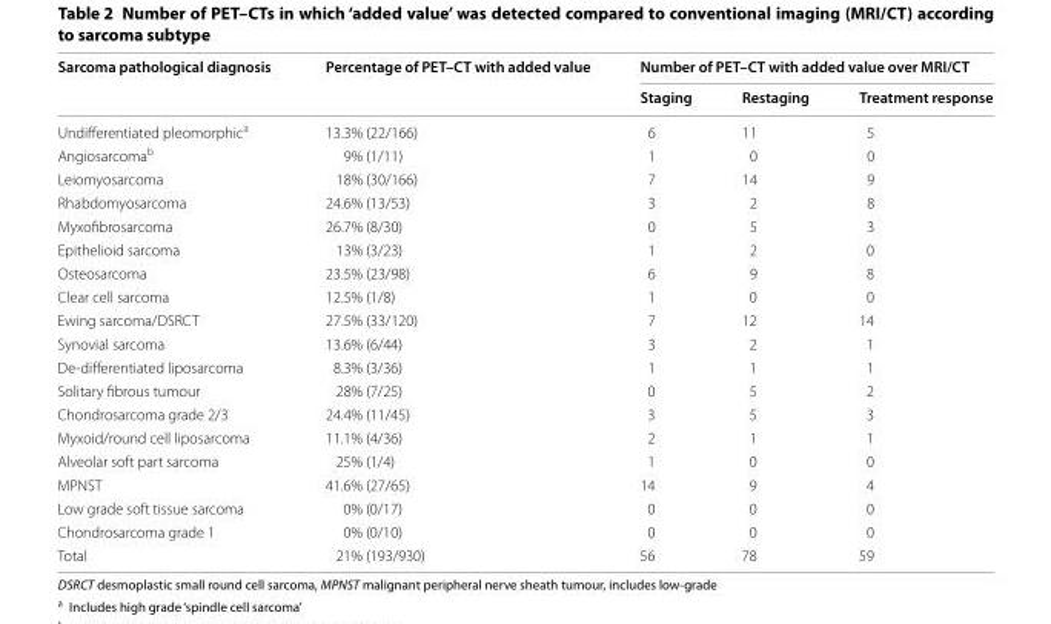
<table><thead><tr><td rowspan="2">Sarcoma pathological diagnosis</td><td rowspan="2">Percentage of PET–CT with added value</td><td colspan="3">Number of PET–CT with added value over MRI/CT</td></tr><tr><td>Staging</td><td>Restaging</td><td>Treatment response</td></tr></thead><tbody><tr><td>Undifferentiated pleomorphic<sup>a</sup></td><td>13.3% (22/166)</td><td>6</td><td>11</td><td>5</td></tr><tr><td>Angiosarcoma<sup>b</sup></td><td>9% (1/11)</td><td>1</td><td>0</td><td>0</td></tr><tr><td>Leiomyosarcoma</td><td>18% (30/166)</td><td>7</td><td>14</td><td>9</td></tr><tr><td>Rhabdomyosarcoma</td><td>24.6% (13/53)</td><td>3</td><td>2</td><td>8</td></tr><tr><td>Myxofibrosarcoma</td><td>26.7% (8/30)</td><td>0</td><td>5</td><td>3</td></tr><tr><td>Epithelioid sarcoma</td><td>13% (3/23)</td><td>1</td><td>2</td><td>0</td></tr><tr><td>Osteosarcoma</td><td>23.5% (23/98)</td><td>6</td><td>9</td><td>8</td></tr><tr><td>Clear cell sarcoma</td><td>12.5% (1/8)</td><td>1</td><td>0</td><td>0</td></tr><tr><td>Ewing sarcoma/DSRCT</td><td>27.5% (33/120)</td><td>7</td><td>12</td><td>14</td></tr><tr><td>Synovial sarcoma</td><td>13.6% (6/44)</td><td>3</td><td>2</td><td>1</td></tr><tr><td>De-differentiated liposarcoma</td><td>8.3% (3/36)</td><td>1</td><td>1</td><td>1</td></tr><tr><td>Solitary fibrous tumour</td><td>28% (7/25)</td><td>0</td><td>5</td><td>2</td></tr><tr><td>Chondrosarcoma grade 2/3</td><td>24.4% (11/45)</td><td>3</td><td>5</td><td>3</td></tr><tr><td>Myxoid/round cell liposarcoma</td><td>11.1% (4/36)</td><td>2</td><td>1</td><td>1</td></tr><tr><td>Alveolar soft part sarcoma</td><td>25% (1/4)</td><td>1</td><td>0</td><td>0</td></tr><tr><td>MPNST</td><td>41.6% (27/65)</td><td>14</td><td>9</td><td>4</td></tr><tr><td>Low grade soft tissue sarcoma</td><td>0% (0/17)</td><td>0</td><td>0</td><td>0</td></tr><tr><td>Chondrosarcoma grade 1</td><td>0% (0/10)</td><td>0</td><td>0</td><td>0</td></tr><tr><td>Total</td><td>21% (193/930)</td><td>56</td><td>78</td><td>59</td></tr></tbody></table>